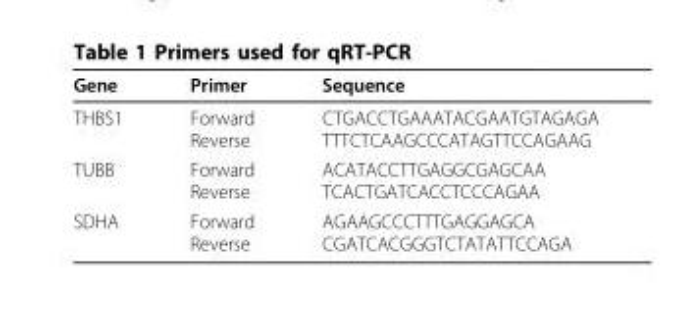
<table><thead><tr><td>Gene</td><td>Primer</td><td>Sequence</td></tr></thead><tbody><tr><td>THBS1</td><td>Forward Reverse</td><td>CTGACCTGAAATACGAATGTAGAGA TTTCTCAAGCCCATAGTTCCAGAAG</td></tr><tr><td>TUBB</td><td>Forward Reverse</td><td>ACATACCTTGAGGCGAGCAA TCACTGATCACCTCCCAGAA</td></tr><tr><td>SDHA</td><td>Forward Reverse</td><td>AGAAGCCCTTTGAGGAGCA CGATCACGGGTCTATATTCCAGA</td></tr></tbody></table>